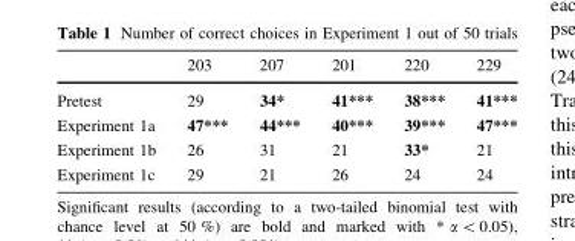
<table><thead><tr><td></td><td>203</td><td>207</td><td>201</td><td>220</td><td>229</td></tr></thead><tbody><tr><td>Pretest</td><td>29</td><td>34*</td><td>41***</td><td>38***</td><td>41***</td></tr><tr><td>Experiment 1a</td><td>47***</td><td>44***</td><td>40***</td><td>39***</td><td>47***</td></tr><tr><td>Experiment 1b</td><td>26</td><td>31</td><td>21</td><td>33*</td><td>21</td></tr><tr><td>Experiment 1c</td><td>29</td><td>21</td><td>26</td><td>24</td><td>24</td></tr></tbody></table>